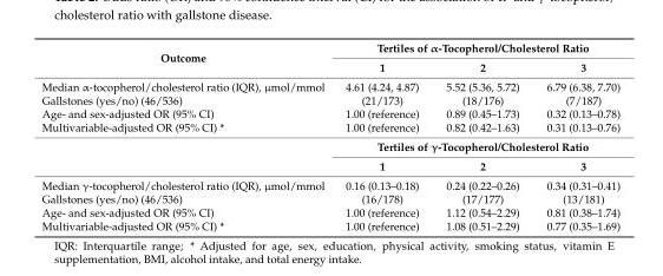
<table><tbody><tr><td rowspan="2">Outcome</td><td colspan="3">Tertiles of α-Tocopherol/Cholesterol Ratio</td></tr><tr><td>1</td><td>2</td><td>3</td></tr><tr><td>Median α-tocopherol/cholesterol ratio (IQR), µmol/mmol</td><td>4.61 (4.24, 4.87)</td><td>5.52 (5.36, 5.72)</td><td>6.79 (6.38, 7.70)</td></tr><tr><td>Gallstones (yes/no) (46/536)</td><td>(21/173)</td><td>(18/176)</td><td>(7/187)</td></tr><tr><td>Age- and sex-adjusted OR (95% CI)</td><td>1.00 (reference)</td><td>0.89 (0.45–1.73)</td><td>0.32 (0.13–0.78)</td></tr><tr><td rowspan="3">Multivariable-adjusted OR (95% CI) *</td><td>1.00 (reference)</td><td>0.82 (0.42–1.63)</td><td>0.31 (0.13–0.76)</td></tr><tr><td colspan="3">Tertiles of γ-Tocopherol/Cholesterol Ratio</td></tr><tr><td>1</td><td>2</td><td>3</td></tr><tr><td>Median γ-tocopherol/cholesterol ratio (IQR), µmol/mmol</td><td>0.16 (0.13–0.18)</td><td>0.24 (0.22–0.26)</td><td>0.34 (0.31–0.41)</td></tr><tr><td>Gallstones (yes/no) (46/536)</td><td>(16/178)</td><td>(17/177)</td><td>(13/181)</td></tr><tr><td>Age- and sex-adjusted OR (95% CI)</td><td>1.00 (reference)</td><td>1.12 (0.54–2.29)</td><td>0.81 (0.38–1.74)</td></tr><tr><td>Multivariable-adjusted OR (95% CI) *</td><td>1.00 (reference)</td><td>1.08 (0.51–2.29)</td><td>0.77 (0.35–1.69)</td></tr></tbody></table>